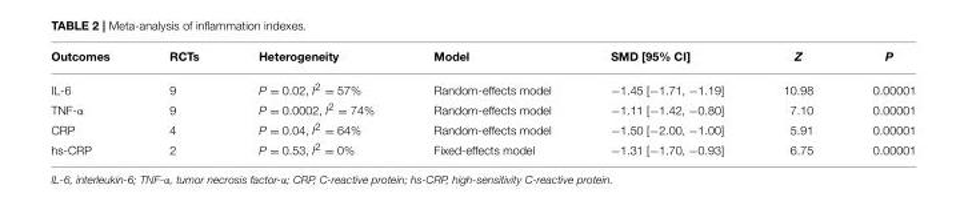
<table><thead><tr><td>Outcomes</td><td>RCTs</td><td>Heterogeneity</td><td>Model</td><td>SMD [95% CI]</td><td>Z</td><td>P</td></tr></thead><tbody><tr><td>IL-6</td><td>9</td><td>P = 0.02, I<sup>2</sup> = 57%</td><td>Random-effects model</td><td>−1.45 [−1.71, −1.19]</td><td>10.98</td><td>0.00001</td></tr><tr><td>TNF-α</td><td>9</td><td>P = 0.0002, I<sup>2</sup> = 74%</td><td>Random-effects model</td><td>−1.11 [−1.42, −0.80]</td><td>7.10</td><td>0.00001</td></tr><tr><td>CRP</td><td>4</td><td>P = 0.04, I<sup>2</sup> = 64%</td><td>Random-effects model</td><td>−1.50 [−2.00, −1.00]</td><td>5.91</td><td>0.00001</td></tr><tr><td>hs-CRP</td><td>2</td><td>P = 0.53, I<sup>2</sup> = 0%</td><td>Fixed-effects model</td><td>−1.31 [−1.70, −0.93]</td><td>6.75</td><td>0.00001</td></tr></tbody></table>